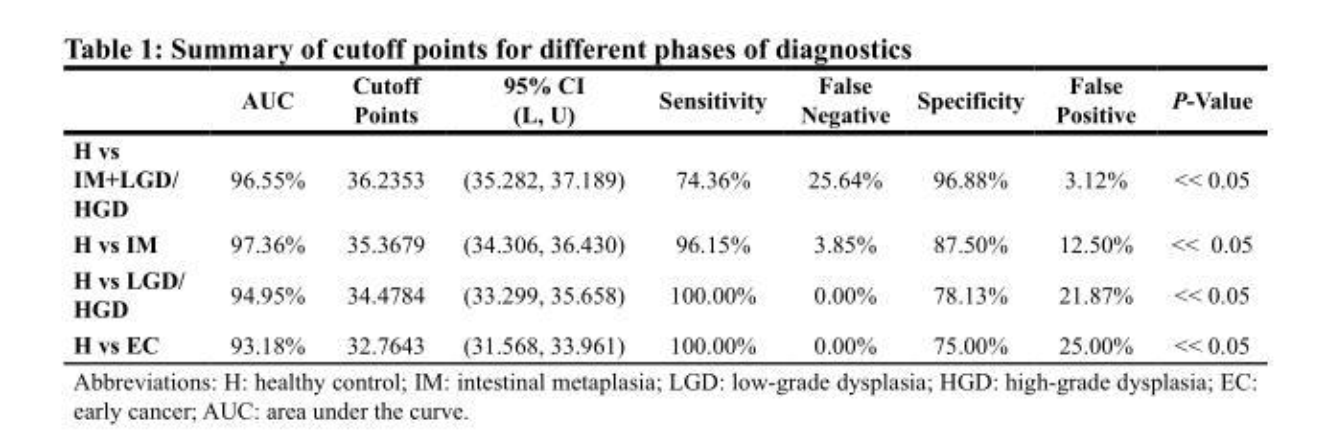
<table><thead><tr><td></td><td>AUC</td><td>Cutoff Points</td><td>95% CI (L, U)</td><td>Sensitivity</td><td>False Negative</td><td>Specificity</td><td>False Positive</td><td>P-Value</td></tr></thead><tbody><tr><td>H vs IM+LGD/ HGD</td><td>96.55%</td><td>36.2353</td><td>(35.282, 37.189)</td><td>74.36%</td><td>25.64%</td><td>96.88%</td><td>3.12%</td><td>&lt;&lt; 0.05</td></tr><tr><td>H vs IM</td><td>97.36%</td><td>35.3679</td><td>(34.306, 36.430)</td><td>96.15%</td><td>3.85%</td><td>87.50%</td><td>12.50%</td><td>&lt;&lt; 0.05</td></tr><tr><td>H vs LGD/ HGD</td><td>94.95%</td><td>34.4784</td><td>(33.299, 35.658)</td><td>100.00%</td><td>0.00%</td><td>78.13%</td><td>21.87%</td><td>&lt;&lt; 0.05</td></tr><tr><td>H vs EC</td><td>93.18%</td><td>32.7643</td><td>(31.568, 33.961)</td><td>100.00%</td><td>0.00%</td><td>75.00%</td><td>25.00%</td><td>&lt;&lt; 0.05</td></tr></tbody></table>